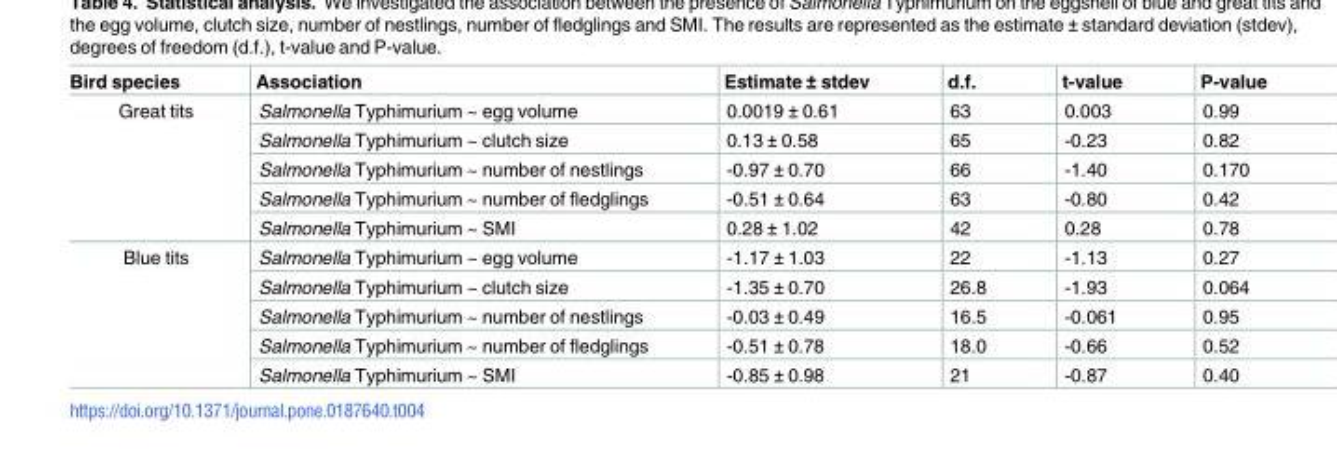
<table><thead><tr><td>Bird species</td><td>Association</td><td>Estimate ± stdev</td><td>d.f.</td><td>t-value</td><td>P-value</td></tr></thead><tbody><tr><td rowspan="5">Great tits</td><td>Salmonella Typhimurium ~ egg volume</td><td>0.0019 ± 0.61</td><td>63</td><td>0.003</td><td>0.99</td></tr><tr><td>Salmonella Typhimurium ~ clutch size</td><td>0.13 ± 0.58</td><td>65</td><td>-0.23</td><td>0.82</td></tr><tr><td>Salmonella Typhimurium ~ number of nestlings</td><td>-0.97 ± 0.70</td><td>66</td><td>-1.40</td><td>0.170</td></tr><tr><td>Salmonella Typhimurium ~ number of fledglings</td><td>-0.51 ± 0.64</td><td>63</td><td>-0.80</td><td>0.42</td></tr><tr><td>Salmonella Typhimurium ~ SMI</td><td>0.28 ± 1.02</td><td>42</td><td>0.28</td><td>0.78</td></tr><tr><td rowspan="5">Blue tits</td><td>Salmonella Typhimurium ~ egg volume</td><td>-1.17 ± 1.03</td><td>22</td><td>-1.13</td><td>0.27</td></tr><tr><td>Salmonella Typhimurium ~ clutch size</td><td>-1.35 ± 0.70</td><td>26.8</td><td>-1.93</td><td>0.064</td></tr><tr><td>Salmonella Typhimurium ~ number of nestlings</td><td>-0.03 ± 0.49</td><td>16.5</td><td>-0.061</td><td>0.95</td></tr><tr><td>Salmonella Typhimurium ~ number of fledglings</td><td>-0.51 ± 0.78</td><td>18.0</td><td>-0.66</td><td>0.52</td></tr><tr><td>Salmonella Typhimurium ~ SMI</td><td>-0.85 ± 0.98</td><td>21</td><td>-0.87</td><td>0.40</td></tr></tbody></table>